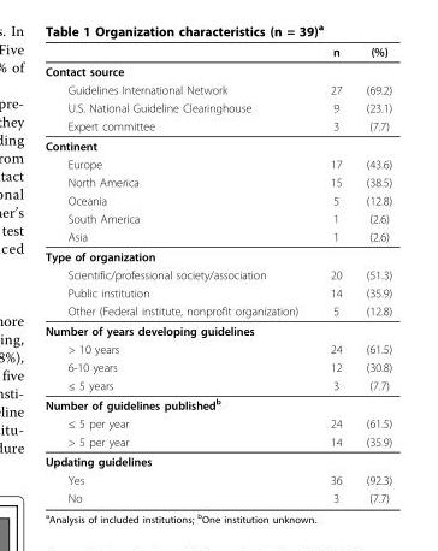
<table><thead><tr><td></td><td>n</td><td>(%)</td></tr></thead><tbody><tr><td colspan="3">Contact source</td></tr><tr><td>Guidelines International Network</td><td>27</td><td>(69.2)</td></tr><tr><td>U.S. National Guideline Clearinghouse</td><td>9</td><td>(23.1)</td></tr><tr><td>Expert committee</td><td>3</td><td>(7.7)</td></tr><tr><td colspan="3">Continent</td></tr><tr><td>Europe</td><td>17</td><td>(43.6)</td></tr><tr><td>North America</td><td>15</td><td>(38.5)</td></tr><tr><td>Oceania</td><td>5</td><td>(12.8)</td></tr><tr><td>South America</td><td>1</td><td>(2.6)</td></tr><tr><td>Asia</td><td>1</td><td>(2.6)</td></tr><tr><td colspan="3">Type of organization</td></tr><tr><td>Scientific/professional society/association</td><td>20</td><td>(51.3)</td></tr><tr><td>Public institution</td><td>14</td><td>(35.9)</td></tr><tr><td>Other (Federal institute, nonprofit organization)</td><td>5</td><td>(12.8)</td></tr><tr><td colspan="3">Number of years developing guidelines</td></tr><tr><td>&gt; 10 years</td><td>24</td><td>(61.5)</td></tr><tr><td>6-10 years</td><td>12</td><td>(30.8)</td></tr><tr><td>≤ 5 years</td><td>3</td><td>(7.7)</td></tr><tr><td colspan="3">Number of guidelines published<sup>b</sup></td></tr><tr><td>≤ 5 per year</td><td>24</td><td>(61.5)</td></tr><tr><td>&gt; 5 per year</td><td>14</td><td>(35.9)</td></tr><tr><td colspan="3">Updating guidelines</td></tr><tr><td>Yes</td><td>36</td><td>(92.3)</td></tr><tr><td>No</td><td>3</td><td>(7.7)</td></tr></tbody></table>